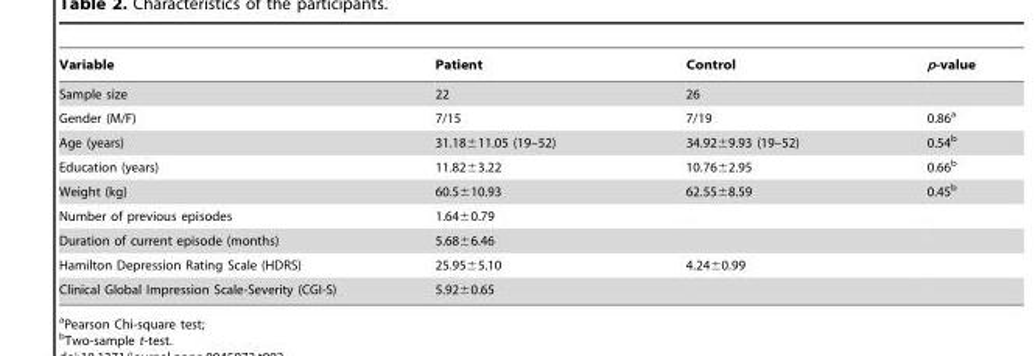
<table><thead><tr><td>Variable</td><td>Patient</td><td>Control</td><td>p-value</td></tr></thead><tbody><tr><td>Sample size</td><td>22</td><td>26</td><td></td></tr><tr><td>Gender (M/F)</td><td>7/15</td><td>7/19</td><td>0.86<sup>a</sup></td></tr><tr><td>Age (years)</td><td>31.18±11.05 (19–52)</td><td>34.92±9.93 (19–52)</td><td>0.54<sup>b</sup></td></tr><tr><td>Education (years)</td><td>11.82±3.22</td><td>10.76±2.95</td><td>0.66<sup>b</sup></td></tr><tr><td>Weight (kg)</td><td>60.5±10.93</td><td>62.55±8.59</td><td>0.45<sup>b</sup></td></tr><tr><td>Number of previous episodes</td><td>1.64±0.79</td><td></td><td></td></tr><tr><td>Duration of current episode (months)</td><td>5.68±6.46</td><td></td><td></td></tr><tr><td>Hamilton Depression Rating Scale (HDRS)</td><td>25.95±5.10</td><td>4.24±0.99</td><td></td></tr><tr><td>Clinical Global Impression Scale-Severity (CGI-S)</td><td>5.92±0.65</td><td></td><td></td></tr></tbody></table>